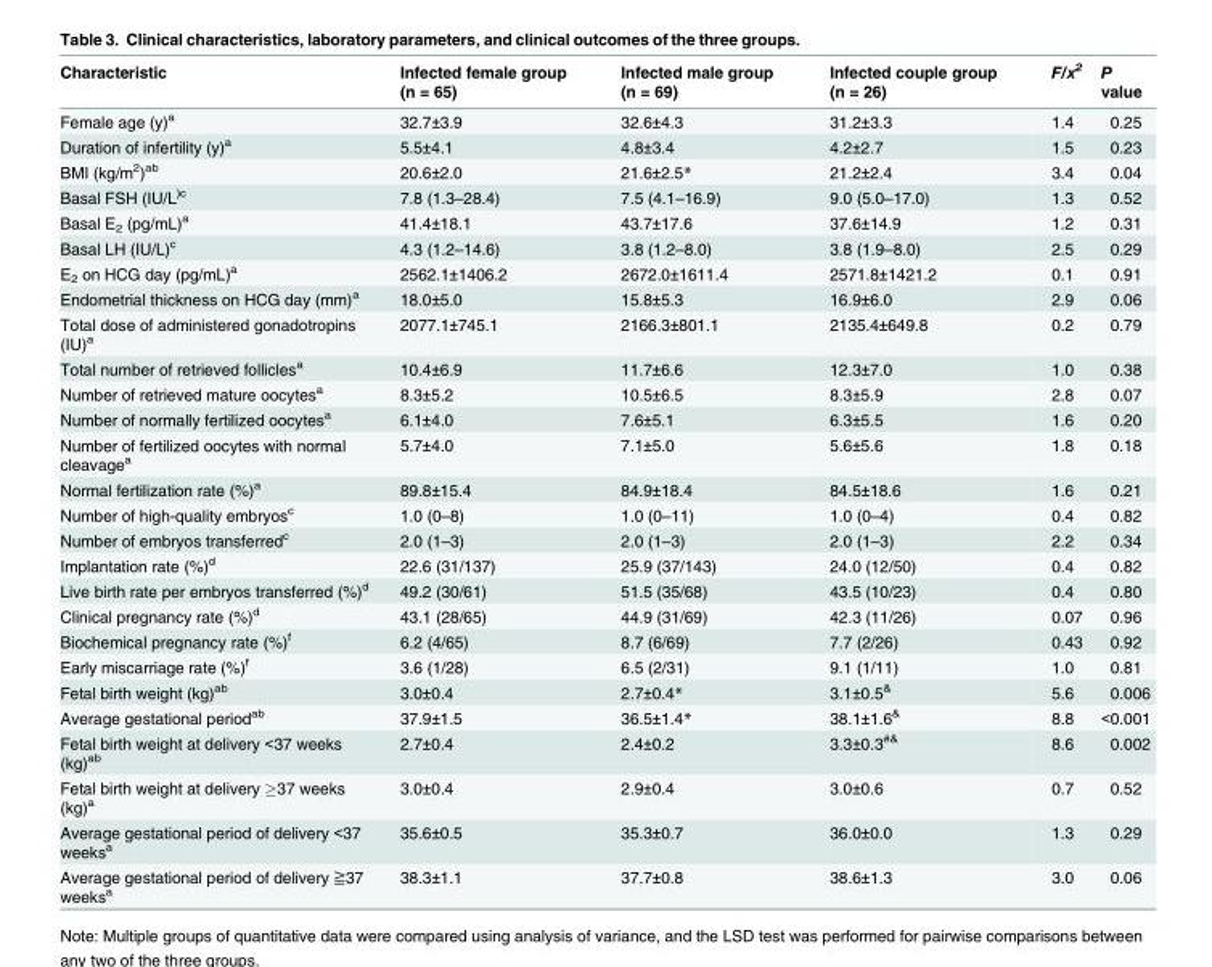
<table><thead><tr><td>Characteristic</td><td>Infected female group (n = 65)</td><td>Infected male group (n = 69)</td><td>Infected couple group (n = 26)</td><td>F/x<sup>2</sup></td><td>P value</td></tr></thead><tbody><tr><td>Female age (y)<sup>a</sup></td><td>32.7±3.9</td><td>32.6±4.3</td><td>31.2±3.3</td><td>1.4</td><td>0.25</td></tr><tr><td>Duration of infertility (y)<sup>a</sup></td><td>5.5±4.1</td><td>4.8±3.4</td><td>4.2±2.7</td><td>1.5</td><td>0.23</td></tr><tr><td>BMI (kg/m<sup>2</sup>)<sup>ab</sup></td><td>20.6±2.0</td><td>21.6±2.5*</td><td>21.2±2.4</td><td>3.4</td><td>0.04</td></tr><tr><td>Basal FSH (IU/L<sup>)c</sup></td><td>7.8 (1.3–28.4)</td><td>7.5 (4.1–16.9)</td><td>9.0 (5.0–17.0)</td><td>1.3</td><td>0.52</td></tr><tr><td>Basal E<sub>2</sub> (pg/mL)<sup>a</sup></td><td>41.4±18.1</td><td>43.7±17.6</td><td>37.6±14.9</td><td>1.2</td><td>0.31</td></tr><tr><td>Basal LH (IU/L)<sup>c</sup></td><td>4.3 (1.2–14.6)</td><td>3.8 (1.2–8.0)</td><td>3.8 (1.9–8.0)</td><td>2.5</td><td>0.29</td></tr><tr><td>E<sub>2</sub> on HCG day (pg/mL)<sup>a</sup></td><td>2562.1±1406.2</td><td>2672.0±1611.4</td><td>2571.8±1421.2</td><td>0.1</td><td>0.91</td></tr><tr><td>Endometrial thickness on HCG day (mm)<sup>a</sup></td><td>18.0±5.0</td><td>15.8±5.3</td><td>16.9±6.0</td><td>2.9</td><td>0.06</td></tr><tr><td>Total dose of administered gonadotropins (IU)<sup>a</sup></td><td>2077.1±745.1</td><td>2166.3±801.1</td><td>2135.4±649.8</td><td>0.2</td><td>0.79</td></tr><tr><td>Total number of retrieved follicles<sup>a</sup></td><td>10.4±6.9</td><td>11.7±6.6</td><td>12.3±7.0</td><td>1.0</td><td>0.38</td></tr><tr><td>Number of retrieved mature oocytes<sup>a</sup></td><td>8.3±5.2</td><td>10.5±6.5</td><td>8.3±5.9</td><td>2.8</td><td>0.07</td></tr><tr><td>Number of normally fertilized oocytes<sup>a</sup></td><td>6.1±4.0</td><td>7.6±5.1</td><td>6.3±5.5</td><td>1.6</td><td>0.20</td></tr><tr><td>Number of fertilized oocytes with normal cleavage<sup>a</sup></td><td>5.7±4.0</td><td>7.1±5.0</td><td>5.6±5.6</td><td>1.8</td><td>0.18</td></tr><tr><td>Normal fertilization rate (%)<sup>a</sup></td><td>89.8±15.4</td><td>84.9±18.4</td><td>84.5±18.6</td><td>1.6</td><td>0.21</td></tr><tr><td>Number of high-quality embryos<sup>c</sup></td><td>1.0 (0–8)</td><td>1.0 (0–11)</td><td>1.0 (0–4)</td><td>0.4</td><td>0.82</td></tr><tr><td>Number of embryos transferred<sup>c</sup></td><td>2.0 (1–3)</td><td>2.0 (1–3)</td><td>2.0 (1–3)</td><td>2.2</td><td>0.34</td></tr><tr><td>Implantation rate (%)<sup>d</sup></td><td>22.6 (31/137)</td><td>25.9 (37/143)</td><td>24.0 (12/50)</td><td>0.4</td><td>0.82</td></tr><tr><td>Live birth rate per embryos transferred (%)<sup>d</sup></td><td>49.2 (30/61)</td><td>51.5 (35/68)</td><td>43.5 (10/23)</td><td>0.4</td><td>0.80</td></tr><tr><td>Clinical pregnancy rate (%)<sup>d</sup></td><td>43.1 (28/65)</td><td>44.9 (31/69)</td><td>42.3 (11/26)</td><td>0.07</td><td>0.96</td></tr><tr><td>Biochemical pregnancy rate (%)<sup>f</sup></td><td>6.2 (4/65)</td><td>8.7 (6/69)</td><td>7.7 (2/26)</td><td>0.43</td><td>0.92</td></tr><tr><td>Early miscarriage rate (%)<sup>f</sup></td><td>3.6 (1/28)</td><td>6.5 (2/31)</td><td>9.1 (1/11)</td><td>1.0</td><td>0.81</td></tr><tr><td>Fetal birth weight (kg)<sup>ab</sup></td><td>3.0±0.4</td><td>2.7±0.4*</td><td>3.1±0.5<sup>&amp;</sup></td><td>5.6</td><td>0.006</td></tr><tr><td>Average gestational period<sup>ab</sup></td><td>37.9±1.5</td><td>36.5±1.4*</td><td>38.1±1.6<sup>&amp;</sup></td><td>8.8</td><td>&lt;0.001</td></tr><tr><td>Fetal birth weight at delivery &lt;37 weeks (kg)<sup>ab</sup></td><td>2.7±0.4</td><td>2.4±0.2</td><td>3.3±0.3<sup>#&amp;</sup></td><td>8.6</td><td>0.002</td></tr><tr><td>Fetal birth weight at delivery ≥37 weeks (kg)<sup>a</sup></td><td>3.0±0.4</td><td>2.9±0.4</td><td>3.0±0.6</td><td>0.7</td><td>0.52</td></tr><tr><td>Average gestational period of delivery &lt;37 weeks<sup>a</sup></td><td>35.6±0.5</td><td>35.3±0.7</td><td>36.0±0.0</td><td>1.3</td><td>0.29</td></tr><tr><td>Average gestational period of delivery ≧37 weeks<sup>a</sup></td><td>38.3±1.1</td><td>37.7±0.8</td><td>38.6±1.3</td><td>3.0</td><td>0.06</td></tr></tbody></table>